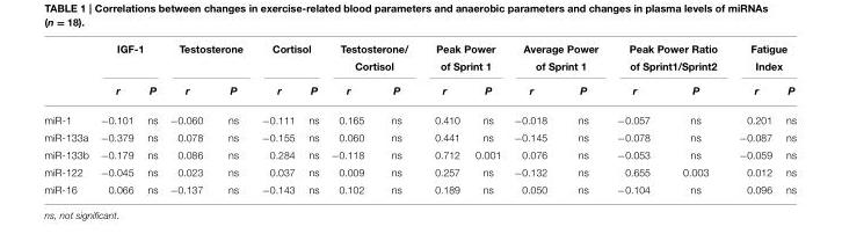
<table><thead><tr><td rowspan="2"></td><td colspan="2">IGF-1</td><td colspan="2">Testosterone</td><td colspan="2">Cortisol</td><td colspan="2">Testosterone/ Cortisol</td><td colspan="2">Peak Power of Sprint 1</td><td colspan="2">Average Power of Sprint 1</td><td colspan="2">Peak Power Ratio of Sprint1/Sprint2</td><td colspan="2">Fatigue Index</td></tr><tr><td>r</td><td>P</td><td>r</td><td>P</td><td>r</td><td>P</td><td>r</td><td>P</td><td>r</td><td>P</td><td>r</td><td>P</td><td>r</td><td>P</td><td>r</td><td>P</td></tr></thead><tbody><tr><td>miR-1</td><td>−0.101</td><td>ns</td><td>−0.060</td><td>ns</td><td>−0.111</td><td>ns</td><td>0.165</td><td>ns</td><td>0.410</td><td>ns</td><td>−0.018</td><td>ns</td><td>−0.057</td><td>ns</td><td>0.201</td><td>ns</td></tr><tr><td>miR-133a</td><td>−0.379</td><td>ns</td><td>0.078</td><td>ns</td><td>−0.155</td><td>ns</td><td>0.060</td><td>ns</td><td>0.441</td><td>ns</td><td>−0.145</td><td>ns</td><td>−0.078</td><td>ns</td><td>−0.087</td><td>ns</td></tr><tr><td>miR-133b</td><td>−0.179</td><td>ns</td><td>0.086</td><td>ns</td><td>0.284</td><td>ns</td><td>−0.118</td><td>ns</td><td>0.712</td><td>0.001</td><td>0.076</td><td>ns</td><td>−0.053</td><td>ns</td><td>−0.059</td><td>ns</td></tr><tr><td>miR-122</td><td>−0.045</td><td>ns</td><td>0.023</td><td>ns</td><td>0.037</td><td>ns</td><td>0.009</td><td>ns</td><td>0.257</td><td>ns</td><td>−0.132</td><td>ns</td><td>0.655</td><td>0.003</td><td>0.012</td><td>ns</td></tr><tr><td>miR-16</td><td>0.066</td><td>ns</td><td>−0.137</td><td>ns</td><td>−0.143</td><td>ns</td><td>0.102</td><td>ns</td><td>0.189</td><td>ns</td><td>0.050</td><td>ns</td><td>−0.104</td><td>ns</td><td>0.096</td><td>ns</td></tr></tbody></table>